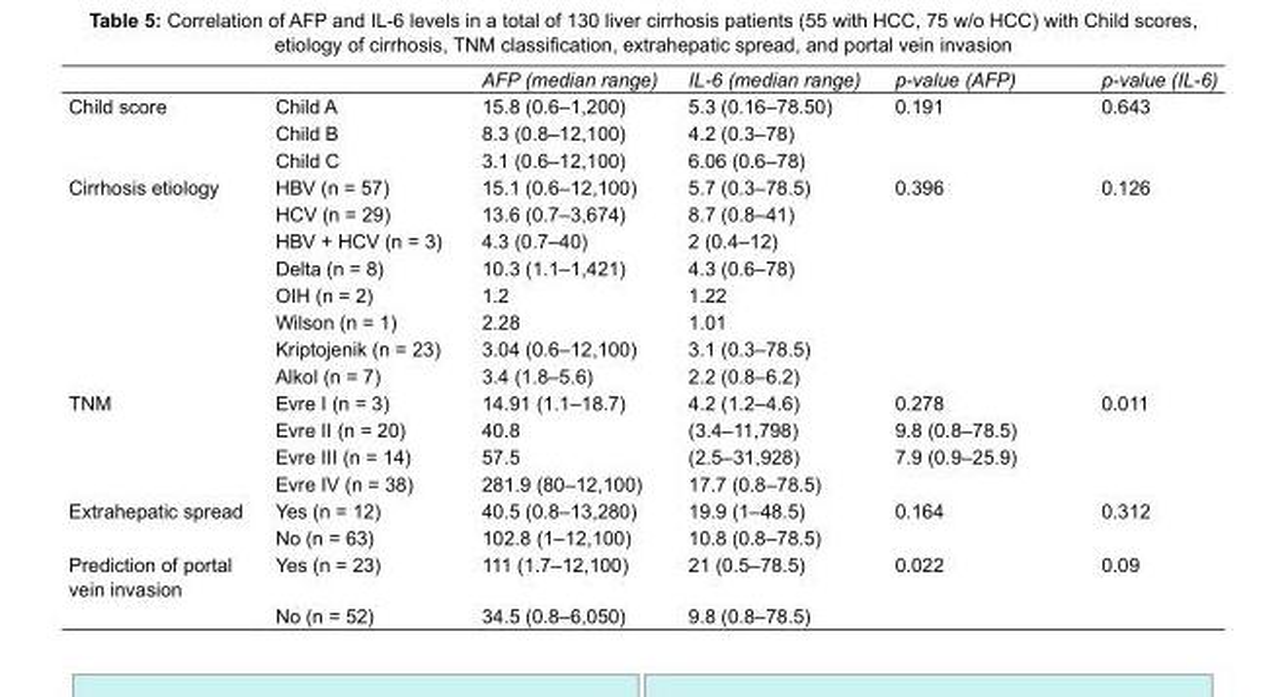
<table><thead><tr><td></td><td></td><td>AFP (median range)</td><td>IL-6 (median range)</td><td>p-value (AFP)</td><td>p-value (IL-6)</td></tr></thead><tbody><tr><td rowspan="3">Child score</td><td>Child A</td><td>15.8 (0.6–1,200)</td><td>5.3 (0.16–78.50)</td><td>0.191</td><td>0.643</td></tr><tr><td>Child B</td><td>8.3 (0.8–12,100)</td><td>4.2 (0.3–78)</td><td></td><td></td></tr><tr><td>Child C</td><td>3.1 (0.6–12,100)</td><td>6.06 (0.6–78)</td><td></td><td></td></tr><tr><td rowspan="8">Cirrhosis etiology</td><td>HBV (n = 57)</td><td>15.1 (0.6–12,100)</td><td>5.7 (0.3–78.5)</td><td>0.396</td><td>0.126</td></tr><tr><td>HCV (n = 29)</td><td>13.6 (0.7–3,674)</td><td>8.7 (0.8–41)</td><td></td><td></td></tr><tr><td>HBV + HCV (n = 3)</td><td>4.3 (0.7–40)</td><td>2 (0.4–12)</td><td></td><td></td></tr><tr><td>Delta (n = 8)</td><td>10.3 (1.1–1,421)</td><td>4.3 (0.6–78)</td><td></td><td></td></tr><tr><td>OIH (n = 2)</td><td>1.2</td><td>1.22</td><td></td><td></td></tr><tr><td>Wilson (n = 1)</td><td>2.28</td><td>1.01</td><td></td><td></td></tr><tr><td>Kriptojenik (n = 23)</td><td>3.04 (0.6–12,100)</td><td>3.1 (0.3–78.5)</td><td></td><td></td></tr><tr><td>Alkol (n = 7)</td><td>3.4 (1.8–5.6)</td><td>2.2 (0.8–6.2)</td><td></td><td></td></tr><tr><td rowspan="4">TNM</td><td>Evre I (n = 3)</td><td>14.91 (1.1–18.7)</td><td>4.2 (1.2–4.6)</td><td>0.278</td><td>0.011</td></tr><tr><td>Evre II (n = 20)</td><td>40.8</td><td>(3.4–11,798)</td><td>9.8 (0.8–78.5)</td><td></td></tr><tr><td>Evre III (n = 14)</td><td>57.5</td><td>(2.5–31,928)</td><td>7.9 (0.9–25.9)</td><td></td></tr><tr><td>Evre IV (n = 38)</td><td>281.9 (80–12,100)</td><td>17.7 (0.8–78.5)</td><td></td><td></td></tr><tr><td rowspan="2">Extrahepatic spread</td><td>Yes (n = 12)</td><td>40.5 (0.8–13,280)</td><td>19.9 (1–48.5)</td><td>0.164</td><td>0.312</td></tr><tr><td>No (n = 63)</td><td>102.8 (1–12,100)</td><td>10.8 (0.8–78.5)</td><td></td><td></td></tr><tr><td rowspan="2">Prediction of portal vein invasion</td><td>Yes (n = 23)</td><td>111 (1.7–12,100)</td><td>21 (0.5–78.5)</td><td>0.022</td><td>0.09</td></tr><tr><td>No (n = 52)</td><td>34.5 (0.8–6,050)</td><td>9.8 (0.8–78.5)</td><td></td><td></td></tr></tbody></table>